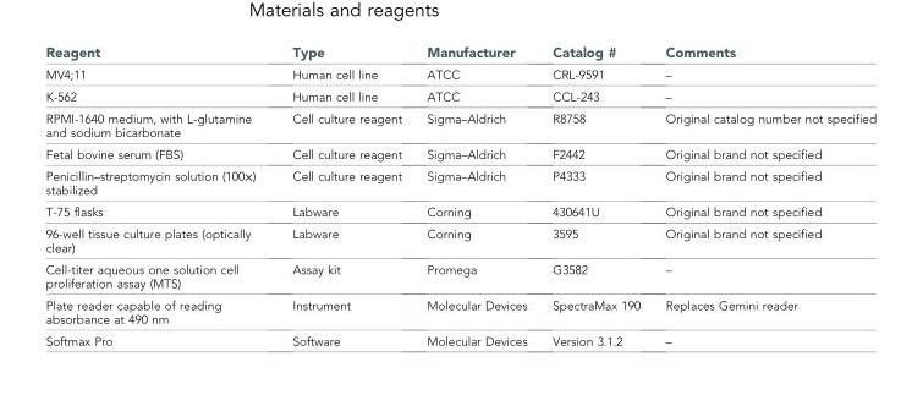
<table><thead><tr><td>Reagent</td><td>Type</td><td>Manufacturer</td><td>Catalog #</td><td>Comments</td></tr></thead><tbody><tr><td>MV4;11</td><td>Human cell line</td><td>ATCC</td><td>CRL-9591</td><td>–</td></tr><tr><td>K-562</td><td>Human cell line</td><td>ATCC</td><td>CCL-243</td><td>–</td></tr><tr><td>RPMI-1640 medium, with L-glutamine and sodium bicarbonate</td><td>Cell culture reagent</td><td>Sigma–Aldrich</td><td>R8758</td><td>Original catalog number not specified</td></tr><tr><td>Fetal bovine serum (FBS)</td><td>Cell culture reagent</td><td>Sigma–Aldrich</td><td>F2442</td><td>Original brand not specified</td></tr><tr><td>Penicillin–streptomycin solution (100×) stabilized</td><td>Cell culture reagent</td><td>Sigma–Aldrich</td><td>P4333</td><td>Original brand not specified</td></tr><tr><td>T-75 flasks</td><td>Labware</td><td>Corning</td><td>430641U</td><td>Original brand not specified</td></tr><tr><td>96-well tissue culture plates (optically clear)</td><td>Labware</td><td>Corning</td><td>3595</td><td>Original brand not specified</td></tr><tr><td>Cell-titer aqueous one solution cell proliferation assay (MTS)</td><td>Assay kit</td><td>Promega</td><td>G3582</td><td>–</td></tr><tr><td>Plate reader capable of reading absorbance at 490 nm</td><td>Instrument</td><td>Molecular Devices</td><td>SpectraMax 190</td><td>Replaces Gemini reader</td></tr><tr><td>Softmax Pro</td><td>Software</td><td>Molecular Devices</td><td>Version 3.1.2</td><td>–</td></tr></tbody></table>